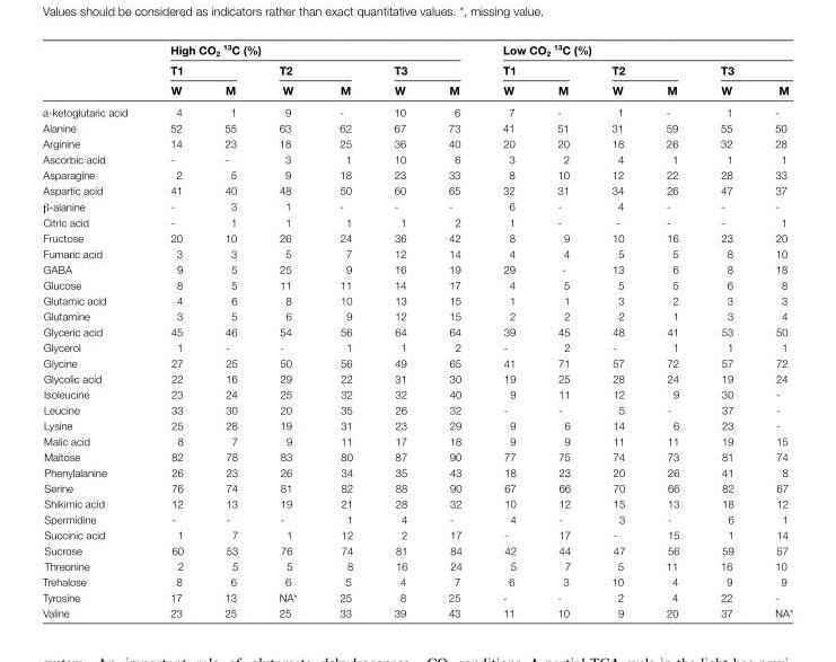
<table><thead><tr><td rowspan="3"></td><td colspan="6">High CO<sub>2</sub> <sup>13</sup>C (%)</td><td colspan="6">Low CO<sub>2</sub> <sup>13</sup>C (%)</td></tr><tr><td colspan="2">T1</td><td colspan="2">T2</td><td colspan="2">T3</td><td colspan="2">T1</td><td colspan="2">T2</td><td colspan="2">T3</td></tr><tr><td>W</td><td>M</td><td>W</td><td>M</td><td>W</td><td>M</td><td>W</td><td>M</td><td>W</td><td>M</td><td>W</td><td>M</td></tr></thead><tbody><tr><td>a-ketoglutaric acid</td><td>4</td><td>1</td><td>9</td><td>-</td><td>10</td><td>6</td><td>7</td><td>-</td><td>1</td><td>-</td><td>1</td><td>-</td></tr><tr><td>Alanine</td><td>52</td><td>55</td><td>63</td><td>62</td><td>67</td><td>73</td><td>41</td><td>51</td><td>31</td><td>59</td><td>55</td><td>50</td></tr><tr><td>Arginine</td><td>14</td><td>23</td><td>18</td><td>25</td><td>36</td><td>40</td><td>20</td><td>20</td><td>18</td><td>26</td><td>32</td><td>28</td></tr><tr><td>Ascorbic acid</td><td>-</td><td>-</td><td>3</td><td>1</td><td>10</td><td>6</td><td>3</td><td>2</td><td>4</td><td>1</td><td>1</td><td>1</td></tr><tr><td>Asparagine</td><td>2</td><td>5</td><td>9</td><td>18</td><td>23</td><td>33</td><td>8</td><td>10</td><td>12</td><td>22</td><td>28</td><td>33</td></tr><tr><td>Aspartic acid</td><td>41</td><td>40</td><td>48</td><td>50</td><td>60</td><td>65</td><td>32</td><td>31</td><td>34</td><td>26</td><td>47</td><td>37</td></tr><tr><td>β-alanine</td><td>-</td><td>3</td><td>1</td><td>-</td><td>-</td><td>-</td><td>6</td><td>-</td><td>4</td><td>-</td><td>-</td><td>-</td></tr><tr><td>Citric acid</td><td>-</td><td>1</td><td>1</td><td>1</td><td>1</td><td>2</td><td>1</td><td>-</td><td>-</td><td>-</td><td>-</td><td>1</td></tr><tr><td>Fructose</td><td>20</td><td>10</td><td>26</td><td>24</td><td>36</td><td>42</td><td>8</td><td>9</td><td>10</td><td>16</td><td>23</td><td>20</td></tr><tr><td>Fumaric acid</td><td>3</td><td>3</td><td>5</td><td>7</td><td>12</td><td>14</td><td>4</td><td>4</td><td>5</td><td>5</td><td>8</td><td>10</td></tr><tr><td>GABA</td><td>9</td><td>5</td><td>25</td><td>9</td><td>16</td><td>19</td><td>29</td><td>-</td><td>13</td><td>6</td><td>8</td><td>18</td></tr><tr><td>Glucose</td><td>8</td><td>5</td><td>11</td><td>11</td><td>14</td><td>17</td><td>4</td><td>5</td><td>5</td><td>5</td><td>6</td><td>8</td></tr><tr><td>Glutamic acid</td><td>4</td><td>6</td><td>8</td><td>10</td><td>13</td><td>15</td><td>1</td><td>1</td><td>3</td><td>2</td><td>3</td><td>3</td></tr><tr><td>Glutamine</td><td>3</td><td>5</td><td>6</td><td>9</td><td>12</td><td>15</td><td>2</td><td>2</td><td>2</td><td>1</td><td>3</td><td>4</td></tr><tr><td>Glyceric acid</td><td>45</td><td>46</td><td>54</td><td>56</td><td>64</td><td>64</td><td>39</td><td>45</td><td>48</td><td>41</td><td>53</td><td>50</td></tr><tr><td>Glycerol</td><td>1</td><td>-</td><td>-</td><td>1</td><td>1</td><td>2</td><td>-</td><td>2</td><td>-</td><td>1</td><td>1</td><td>1</td></tr><tr><td>Glycine</td><td>27</td><td>25</td><td>50</td><td>56</td><td>49</td><td>65</td><td>41</td><td>71</td><td>57</td><td>72</td><td>57</td><td>72</td></tr><tr><td>Glycolic acid</td><td>22</td><td>16</td><td>29</td><td>22</td><td>31</td><td>30</td><td>19</td><td>25</td><td>28</td><td>24</td><td>19</td><td>24</td></tr><tr><td>Isoleucine</td><td>23</td><td>24</td><td>25</td><td>32</td><td>32</td><td>40</td><td>9</td><td>11</td><td>12</td><td>9</td><td>30</td><td>-</td></tr><tr><td>Leucine</td><td>33</td><td>30</td><td>20</td><td>35</td><td>26</td><td>32</td><td>-</td><td>-</td><td>5</td><td>-</td><td>37</td><td>-</td></tr><tr><td>Lysine</td><td>25</td><td>28</td><td>19</td><td>31</td><td>23</td><td>29</td><td>9</td><td>6</td><td>14</td><td>6</td><td>23</td><td>-</td></tr><tr><td>Malic acid</td><td>8</td><td>7</td><td>9</td><td>11</td><td>17</td><td>18</td><td>9</td><td>9</td><td>11</td><td>11</td><td>19</td><td>15</td></tr><tr><td>Maltose</td><td>82</td><td>78</td><td>83</td><td>80</td><td>87</td><td>90</td><td>77</td><td>75</td><td>74</td><td>73</td><td>81</td><td>74</td></tr><tr><td>Phenylalanine</td><td>26</td><td>23</td><td>26</td><td>34</td><td>35</td><td>43</td><td>18</td><td>23</td><td>20</td><td>26</td><td>41</td><td>8</td></tr><tr><td>Serine</td><td>76</td><td>74</td><td>81</td><td>82</td><td>88</td><td>90</td><td>67</td><td>66</td><td>70</td><td>66</td><td>82</td><td>67</td></tr><tr><td>Shikimic acid</td><td>12</td><td>13</td><td>19</td><td>21</td><td>28</td><td>32</td><td>10</td><td>12</td><td>15</td><td>13</td><td>18</td><td>12</td></tr><tr><td>Spermidine</td><td>-</td><td>-</td><td>-</td><td>1</td><td>4</td><td>-</td><td>4</td><td>-</td><td>3</td><td>-</td><td>6</td><td>1</td></tr><tr><td>Succinic acid</td><td>1</td><td>7</td><td>1</td><td>12</td><td>2</td><td>17</td><td>-</td><td>17</td><td>-</td><td>15</td><td>1</td><td>14</td></tr><tr><td>Sucrose</td><td>60</td><td>53</td><td>76</td><td>74</td><td>81</td><td>84</td><td>42</td><td>44</td><td>47</td><td>56</td><td>59</td><td>57</td></tr><tr><td>Threonine</td><td>2</td><td>5</td><td>5</td><td>8</td><td>16</td><td>24</td><td>5</td><td>7</td><td>5</td><td>11</td><td>16</td><td>10</td></tr><tr><td>Trehalose</td><td>8</td><td>6</td><td>6</td><td>5</td><td>4</td><td>7</td><td>6</td><td>3</td><td>10</td><td>4</td><td>9</td><td>9</td></tr><tr><td>Tyrosine</td><td>17</td><td>13</td><td>NA*</td><td>25</td><td>8</td><td>25</td><td>-</td><td>-</td><td>2</td><td>4</td><td>22</td><td>-</td></tr><tr><td>Valine</td><td>23</td><td>25</td><td>25</td><td>33</td><td>39</td><td>43</td><td>11</td><td>10</td><td>9</td><td>20</td><td>37</td><td>NA*</td></tr></tbody></table>